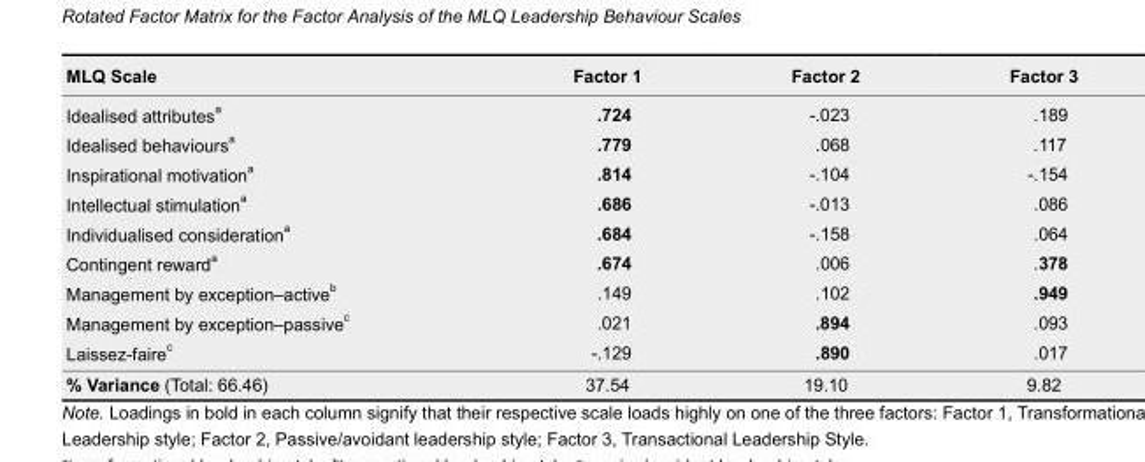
<table><thead><tr><td>MLQ Scale</td><td>Factor 1</td><td>Factor 2</td><td>Factor 3</td></tr></thead><tbody><tr><td>Idealised attributes <sup>a</sup></td><td>.724</td><td>-.023</td><td>.189</td></tr><tr><td>Idealised behaviours <sup>a</sup></td><td>.779</td><td>.068</td><td>.117</td></tr><tr><td>Inspirational motivation <sup>a</sup></td><td>.814</td><td>-.104</td><td>-.154</td></tr><tr><td>Intellectual stimulation <sup>a</sup></td><td>.686</td><td>-.013</td><td>.086</td></tr><tr><td>Individualised consideration <sup>a</sup></td><td>.684</td><td>-.158</td><td>.064</td></tr><tr><td>Contingent reward <sup>a</sup></td><td>.674</td><td>.006</td><td>.378</td></tr><tr><td>Management by exception–active <sup>b</sup></td><td>.149</td><td>.102</td><td>.949</td></tr><tr><td>Management by exception–passive <sup>c</sup></td><td>.021</td><td>.894</td><td>.093</td></tr><tr><td>Laissez-faire <sup>c</sup></td><td>-.129</td><td>.890</td><td>.017</td></tr><tr><td>% Variance (Total: 66.46)</td><td>37.54</td><td>19.10</td><td>9.82</td></tr></tbody></table>